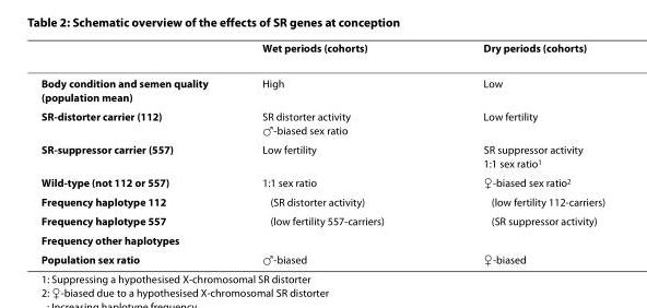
<table><thead><tr><td></td><td>Wet periods (cohorts)</td><td>Dry periods (cohorts)</td></tr></thead><tbody><tr><td>Body condition and semen quality (population mean)</td><td>High</td><td>Low</td></tr><tr><td>SR-distorter carrier (112)</td><td>SR distorter activity ♂-biased sex ratio</td><td>Low fertility</td></tr><tr><td>SR-suppressor carrier (557)</td><td>Low fertility</td><td>SR suppressor activity 1:1 sex ratio<sup>1</sup></td></tr><tr><td>Wild-type (not 112 or 557)</td><td>1:1 sex ratio</td><td>♀-biased sex ratio<sup>2</sup></td></tr><tr><td>Frequency haplotype 112</td><td>↑ (SR distorter activity)</td><td>↓ (low fertility 112-carriers)</td></tr><tr><td>Frequency haplotype 557</td><td>↓ (low fertility 557-carriers)</td><td>↑ (SR suppressor activity)</td></tr><tr><td>Frequency other haplotypes</td><td>↔</td><td>↔</td></tr><tr><td>Population sex ratio</td><td>♂-biased</td><td>♀-biased</td></tr></tbody></table>